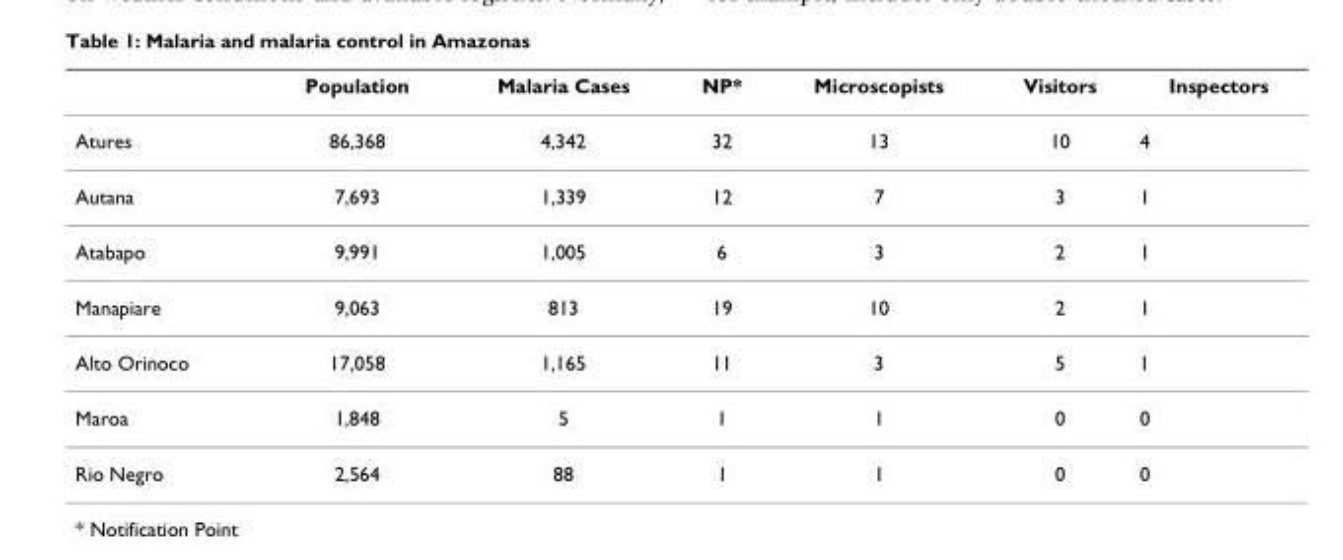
<table><thead><tr><td></td><td>Population</td><td>Malaria Cases</td><td>NP*</td><td>Microscopists</td><td>Visitors</td><td>Inspectors</td></tr></thead><tbody><tr><td>Atures</td><td>86,368</td><td>4,342</td><td>32</td><td>13</td><td>10</td><td>4</td></tr><tr><td>Autana</td><td>7,693</td><td>1,339</td><td>12</td><td>7</td><td>3</td><td>1</td></tr><tr><td>Atabapo</td><td>9,991</td><td>1,005</td><td>6</td><td>3</td><td>2</td><td>1</td></tr><tr><td>Manapiare</td><td>9,063</td><td>813</td><td>19</td><td>10</td><td>2</td><td>1</td></tr><tr><td>Alto Orinoco</td><td>17,058</td><td>1,165</td><td>11</td><td>3</td><td>5</td><td>1</td></tr><tr><td>Maroa</td><td>1,848</td><td>5</td><td>1</td><td>1</td><td>0</td><td>0</td></tr><tr><td>Rio Negro</td><td>2,564</td><td>88</td><td>1</td><td>1</td><td>0</td><td>0</td></tr></tbody></table>